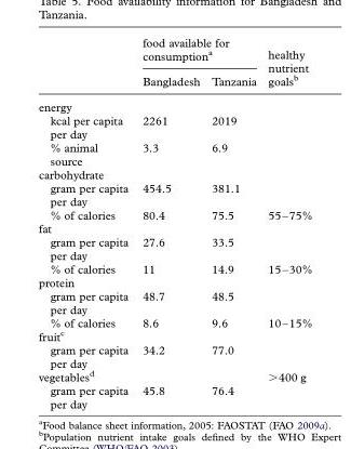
<table><thead><tr><td rowspan="2"></td><td colspan="2">food available for consumption<sup>a</sup></td><td rowspan="2">healthy nutrient goals<sup>b</sup></td></tr><tr><td>Bangladesh</td><td>Tanzania</td></tr></thead><tbody><tr><td colspan="4">energy</td></tr><tr><td>kcal per capita per day</td><td>2261</td><td>2019</td><td></td></tr><tr><td>% animal source</td><td>3.3</td><td>6.9</td><td></td></tr><tr><td colspan="4">carbohydrate</td></tr><tr><td>gram per capita per day</td><td>454.5</td><td>381.1</td><td></td></tr><tr><td>% of calories</td><td>80.4</td><td>75.5</td><td>55–75%</td></tr><tr><td colspan="4">fat</td></tr><tr><td>gram per capita per day</td><td>27.6</td><td>33.5</td><td></td></tr><tr><td>% of calories</td><td>11</td><td>14.9</td><td>15–30%</td></tr><tr><td colspan="4">protein</td></tr><tr><td>gram per capita per day</td><td>48.7</td><td>48.5</td><td></td></tr><tr><td>% of calories</td><td>8.6</td><td>9.6</td><td>10–15%</td></tr><tr><td colspan="4">fruit<sup>c</sup></td></tr><tr><td>gram per capita per day</td><td>34.2</td><td>77.0</td><td></td></tr><tr><td>vegetables<sup>d</sup></td><td></td><td></td><td>&gt;400 g</td></tr><tr><td>gram per capita per day</td><td>45.8</td><td>76.4</td><td></td></tr></tbody></table>